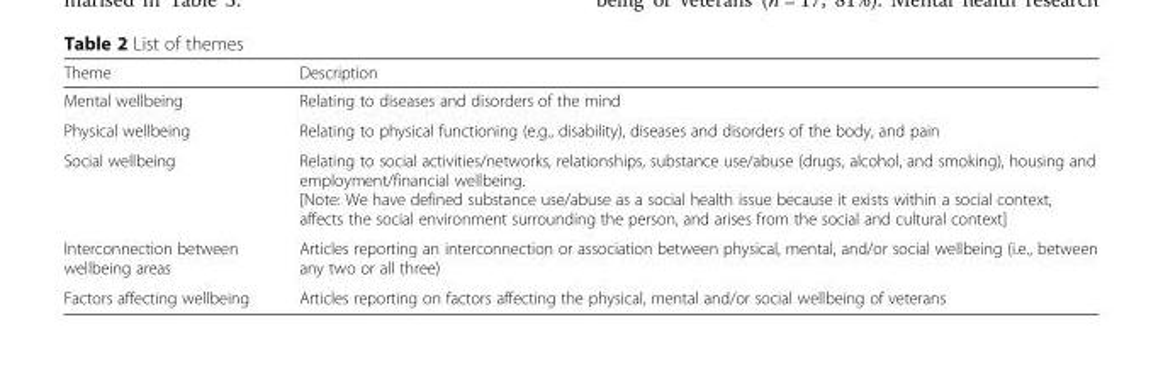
<table><thead><tr><td>Theme</td><td>Description</td></tr></thead><tbody><tr><td>Mental wellbeing</td><td>Relating to diseases and disorders of the mind</td></tr><tr><td>Physical wellbeing</td><td>Relating to physical functioning (e.g., disability), diseases and disorders of the body, and pain</td></tr><tr><td>Social wellbeing</td><td>Relating to social activities/networks, relationships, substance use/abuse (drugs, alcohol, and smoking), housing and employment/financial wellbeing. [Note: We have defined substance use/abuse as a social health issue because it exists within a social context, affects the social environment surrounding the person, and arises from the social and cultural context]</td></tr><tr><td>Interconnection between wellbeing areas</td><td>Articles reporting an interconnection or association between physical, mental, and/or social wellbeing (i.e., between any two or all three)</td></tr><tr><td>Factors affecting wellbeing</td><td>Articles reporting on factors affecting the physical, mental and/or social wellbeing of veterans</td></tr></tbody></table>